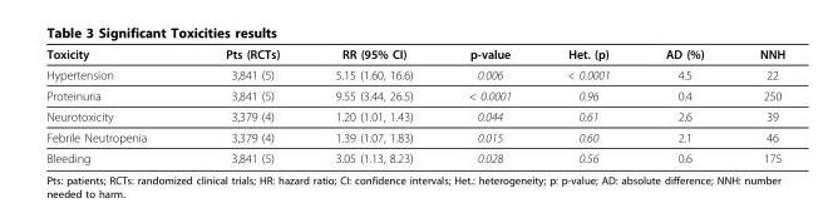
<table><thead><tr><td>Toxicity</td><td>Pts (RCTs)</td><td>RR (95% CI)</td><td>p-value</td><td>Het. (p)</td><td>AD (%)</td><td>NNH</td></tr></thead><tbody><tr><td>Hypertension</td><td>3,841 (5)</td><td>5.15 (1.60, 16.6)</td><td>0.006</td><td>&lt; 0.0001</td><td>4.5</td><td>22</td></tr><tr><td>Proteinuria</td><td>3,841 (5)</td><td>9.55 (3.44, 26.5)</td><td>&lt; 0.0001</td><td>0.96</td><td>0.4</td><td>250</td></tr><tr><td>Neurotoxicity</td><td>3,379 (4)</td><td>1.20 (1.01, 1.43)</td><td>0.044</td><td>0.61</td><td>2.6</td><td>39</td></tr><tr><td>Febrile Neutropenia</td><td>3,379 (4)</td><td>1.39 (1.07, 1.83)</td><td>0.015</td><td>0.60</td><td>2.1</td><td>46</td></tr><tr><td>Bleeding</td><td>3,841 (5)</td><td>3.05 (1.13, 8.23)</td><td>0.028</td><td>0.56</td><td>0.6</td><td>175</td></tr></tbody></table>